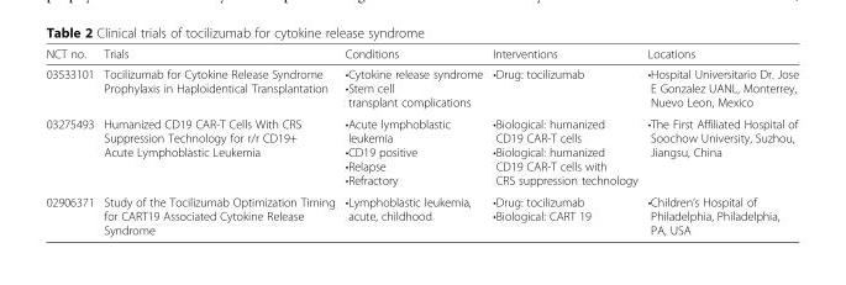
<table><thead><tr><td>NCT no.</td><td>Trials</td><td>Conditions</td><td>Interventions</td><td>Locations</td></tr></thead><tbody><tr><td>03533101</td><td>Tocilizumab for Cytokine Release Syndrome Prophylaxis in Haploidentical Transplantation</td><td>•Cytokine release syndrome •Stem cell transplant complications</td><td>•Drug: tocilizumab</td><td>•Hospital Universitario Dr. Jose E Gonzalez UANL, Monterrey, Nuevo Leon, Mexico</td></tr><tr><td>03275493</td><td>Humanized CD19 CAR-T Cells With CRS Suppression Technology for r/r CD19+ Acute Lymphoblastic Leukemia</td><td>•Acute lymphoblastic leukemia •CD19 positive •Relapse •Refractory</td><td>•Biological: humanized CD19 CAR-T cells •Biological: humanized CD19 CAR-T cells with CRS suppression technology</td><td>•The First Affiliated Hospital of Soochow University, Suzhou, Jiangsu, China</td></tr><tr><td>02906371</td><td>Study of the Tocilizumab Optimization Timing for CART19 Associated Cytokine Release Syndrome</td><td>•Lymphoblastic leukemia, acute, childhood</td><td>•Drug: tocilizumab •Biological: CART 19</td><td>•Children’s Hospital of Philadelphia, Philadelphia, PA, USA</td></tr></tbody></table>